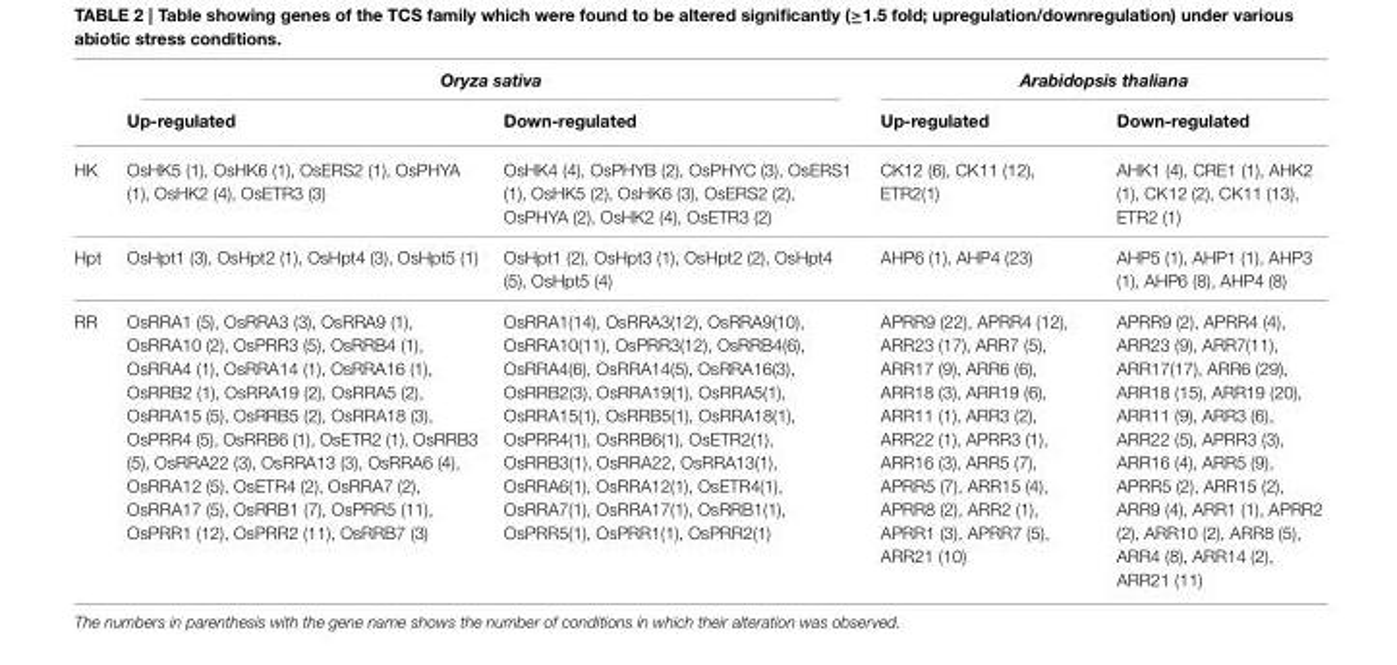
<table><thead><tr><td rowspan="2"></td><td colspan="2">Oryza sativa</td><td colspan="2">Arabidopsis thaliana</td></tr><tr><td>Up-regulated</td><td>Down-regulated</td><td>Up-regulated</td><td>Down-regulated</td></tr></thead><tbody><tr><td>HK</td><td>OsHK5 (1), OsHK6 (1), OsERS2 (1), OsPHYA (1), OsHK2 (4), OsETR3 (3)</td><td>OsHK4 (4), OsPHYB (2), OsPHYC (3), OsERS1 (1), OsHK5 (2), OsHK6 (3), OsERS2 (2), OsPHYA (2), OsHK2 (4), OsETR3 (2)</td><td>CK12 (6), CK11 (12), ETR2(1)</td><td>AHK1 (4), CRE1 (1), AHK2 (1), CK12 (2), CK11 (13), ETR2 (1)</td></tr><tr><td>Hpt</td><td>OsHpt1 (3), OsHpt2 (1), OsHpt4 (3), OsHpt5 (1)</td><td>OsHpt1 (2), OsHpt3 (1), OsHpt2 (2), OsHpt4 (5), OsHpt5 (4)</td><td>AHP6 (1), AHP4 (23)</td><td>AHP5 (1), AHP1 (1), AHP3 (1), AHP6 (8), AHP4 (8)</td></tr><tr><td>RR</td><td>OsRRA1 (5), OsRRA3 (3), OsRRA9 (1), OsRRA10 (2), OsPRR3 (5), OsRRB4 (1), OsRRA4 (1), OsRRA14 (1), OsRRA16 (1), OsRRB2 (1), OsRRA19 (2), OsRRA5 (2), OsRRA15 (5), OsRRB5 (2), OsRRA18 (3), OsPRR4 (5), OsRRB6 (1), OsETR2 (1), OsRRB3 (5), OsRRA22 (3), OsRRA13 (3), OsRRA6 (4), OsRRA12 (5), OsETR4 (2), OsRRA7 (2), OsRRA17 (5), OsRRB1 (7), OsPRR5 (11), OsPRR1 (12), OsPRR2 (11), OsRRB7 (3)</td><td>OsRRA1(14), OsRRA3(12), OsRRA9(10), OsRRA10(11), OsPRR3(12), OsRRB4(6), OsRRA4(6), OsRRA14(5), OsRRA16(3), OsRRB2(3), OsRRA19(1), OsRRA5(1), OsRRA15(1), OsRRB5(1), OsRRA18(1), OsPRR4(1), OsRRB6(1), OsETR2(1), OsRRB3(1), OsRRA22, OsRRA13(1), OsRRA6(1), OsRRA12(1), OsETR4(1), OsRRA7(1), OsRRA17(1), OsRRB1(1), OsPRR5(1), OsPRR1(1), OsPRR2(1)</td><td>APRR9 (22), APRR4 (12), ARR23 (17), ARR7 (5), ARR17 (9), ARR6 (6), ARR18 (3), ARR19 (6), ARR11 (1), ARR3 (2), ARR22 (1), APRR3 (1), ARR16 (3), ARR5 (7), APRR5 (7), ARR15 (4), APRR8 (2), ARR2 (1), APRR1 (3), APRR7 (5), ARR21 (10)</td><td>APRR9 (2), APRR4 (4), ARR23 (9), ARR7(11), ARR17(17), ARR6 (29), ARR18 (15), ARR19 (20), ARR11 (9), ARR3 (6), ARR22 (5), APRR3 (3), ARR16 (4), ARR5 (9), APRR5 (2), ARR15 (2), ARR9 (4), ARR1 (1), APRR2 (2), ARR10 (2), ARR8 (5), ARR4 (8), ARR14 (2), ARR21 (11)</td></tr></tbody></table>